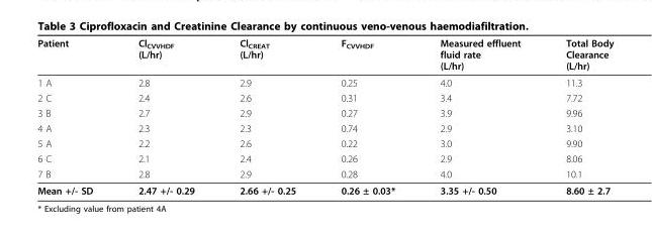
<table><thead><tr><td>Patient</td><td>Cl<sub>CVVHDF</sub> (L/hr)</td><td>Cl<sub>CREAT</sub> (L/hr)</td><td>F<sub>CVVHDF</sub></td><td>Measured effluent fluid rate (L/hr)</td><td>Total Body Clearance (L/hr)</td></tr></thead><tbody><tr><td>1 A</td><td>2.8</td><td>2.9</td><td>0.25</td><td>4.0</td><td>11.3</td></tr><tr><td>2 C</td><td>2.4</td><td>2.6</td><td>0.31</td><td>3.4</td><td>7.72</td></tr><tr><td>3 B</td><td>2.7</td><td>2.9</td><td>0.27</td><td>3.9</td><td>9.96</td></tr><tr><td>4 A</td><td>2.3</td><td>2.3</td><td>0.74</td><td>2.9</td><td>3.10</td></tr><tr><td>5 A</td><td>2.2</td><td>2.6</td><td>0.22</td><td>3.0</td><td>9.90</td></tr><tr><td>6 C</td><td>2.1</td><td>2.4</td><td>0.26</td><td>2.9</td><td>8.06</td></tr><tr><td>7 B</td><td>2.8</td><td>2.9</td><td>0.28</td><td>4.0</td><td>10.1</td></tr><tr><td>Mean +/- SD</td><td>2.47 +/- 0.29</td><td>2.66 +/- 0.25</td><td>0.26 ± 0.03*</td><td>3.35 +/- 0.50</td><td>8.60 ± 2.7</td></tr></tbody></table>